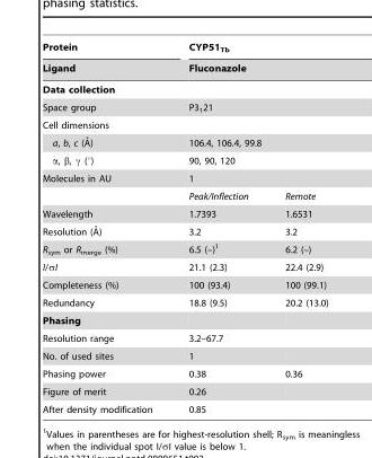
<table><thead><tr><td rowspan="2">Protein Ligand</td><td rowspan="2" colspan="2">CYP51<sub>Tb</sub> Fluconazole</td></tr><tr></tr></thead><tbody><tr><td colspan="3">Data collection</td></tr><tr><td>Space group</td><td colspan="2">P3<sub>1</sub>21</td></tr><tr><td colspan="3">Cell dimensions</td></tr><tr><td>a, b, c (A˚)</td><td colspan="2">106.4, 106.4, 99.8</td></tr><tr><td>α, β, γ (°)</td><td colspan="2">90, 90, 120</td></tr><tr><td rowspan="2">Molecules in AU</td><td colspan="2">1</td></tr><tr><td>Peak/Inflection</td><td>Remote</td></tr><tr><td>Wavelength</td><td>1.7393</td><td>1.6531</td></tr><tr><td>Resolution (A˚)</td><td>3.2</td><td>3.2</td></tr><tr><td>R<sub>sym</sub> or R<sub>merge</sub> (%)</td><td>6.5 (–)<sup>1</sup></td><td>6.2 (–)</td></tr><tr><td>I/σI</td><td>21.1 (2.3)</td><td>22.4 (2.9)</td></tr><tr><td>Completeness (%)</td><td>100 (93.4)</td><td>100 (99.1)</td></tr><tr><td>Redundancy</td><td>18.8 (9.5)</td><td>20.2 (13.0)</td></tr><tr><td colspan="3">Phasing</td></tr><tr><td>Resolution range</td><td>3.2–67.7</td><td></td></tr><tr><td>No. of used sites</td><td>1</td><td></td></tr><tr><td>Phasing power</td><td>0.38</td><td>0.36</td></tr><tr><td>Figure of merit</td><td>0.26</td><td></td></tr><tr><td>After density modification</td><td>0.85</td><td></td></tr></tbody></table>